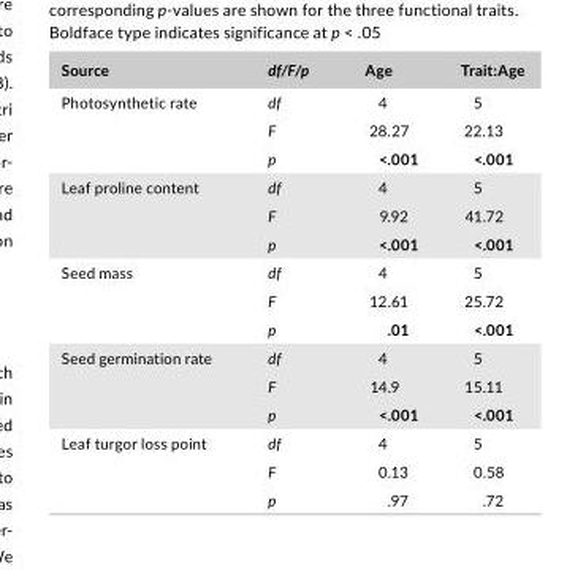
<table><thead><tr><td>Source</td><td>df/F/p</td><td>Age</td><td>Trait:Age</td></tr></thead><tbody><tr><td rowspan="3">Photosynthetic rate</td><td>df</td><td>4</td><td>5</td></tr><tr><td>F</td><td>28.27</td><td>22.13</td></tr><tr><td>p</td><td>&lt;.001</td><td>&lt;.001</td></tr><tr><td rowspan="3">Leaf proline content</td><td>df</td><td>4</td><td>5</td></tr><tr><td>F</td><td>9.92</td><td>41.72</td></tr><tr><td>p</td><td>&lt;.001</td><td>&lt;.001</td></tr><tr><td rowspan="3">Seed mass</td><td>df</td><td>4</td><td>5</td></tr><tr><td>F</td><td>12.61</td><td>25.72</td></tr><tr><td>p</td><td>.01</td><td>&lt;.001</td></tr><tr><td rowspan="3">Seed germination rate</td><td>df</td><td>4</td><td>5</td></tr><tr><td>F</td><td>14.9</td><td>15.11</td></tr><tr><td>p</td><td>&lt;.001</td><td>&lt;.001</td></tr><tr><td rowspan="3">Leaf turgor loss point</td><td>df</td><td>4</td><td>5</td></tr><tr><td>F</td><td>0.13</td><td>0.58</td></tr><tr><td>p</td><td>.97</td><td>.72</td></tr></tbody></table>